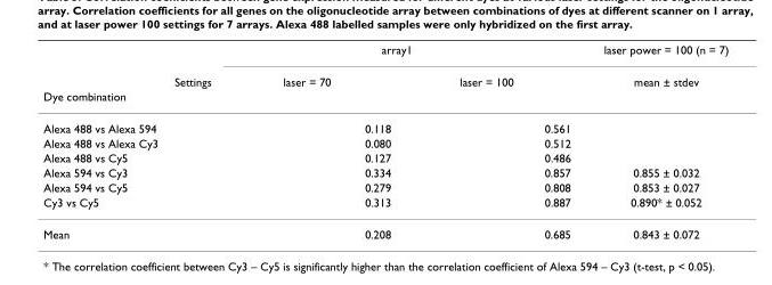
<table><thead><tr><td rowspan="3">Settings Dye combination</td><td colspan="2">array1</td><td rowspan="3">laser power = 100 (n = 7) mean ± stdev</td></tr><tr><td rowspan="2">laser = 70</td><td rowspan="2">laser = 100</td></tr><tr></tr></thead><tbody><tr><td>Alexa 488 vs Alexa 594</td><td>0.118</td><td>0.561</td><td></td></tr><tr><td>Alexa 488 vs Alexa Cy3</td><td>0.080</td><td>0.512</td><td></td></tr><tr><td>Alexa 488 vs Cy5</td><td>0.127</td><td>0.486</td><td></td></tr><tr><td>Alexa 594 vs Cy3</td><td>0.334</td><td>0.857</td><td>0.855 ± 0.032</td></tr><tr><td>Alexa 594 vs Cy5</td><td>0.279</td><td>0.808</td><td>0.853 ± 0.027</td></tr><tr><td>Cy3 vs Cy5</td><td>0.313</td><td>0.887</td><td>0.890* ± 0.052</td></tr><tr><td>Mean</td><td>0.208</td><td>0.685</td><td>0.843 ± 0.072</td></tr></tbody></table>